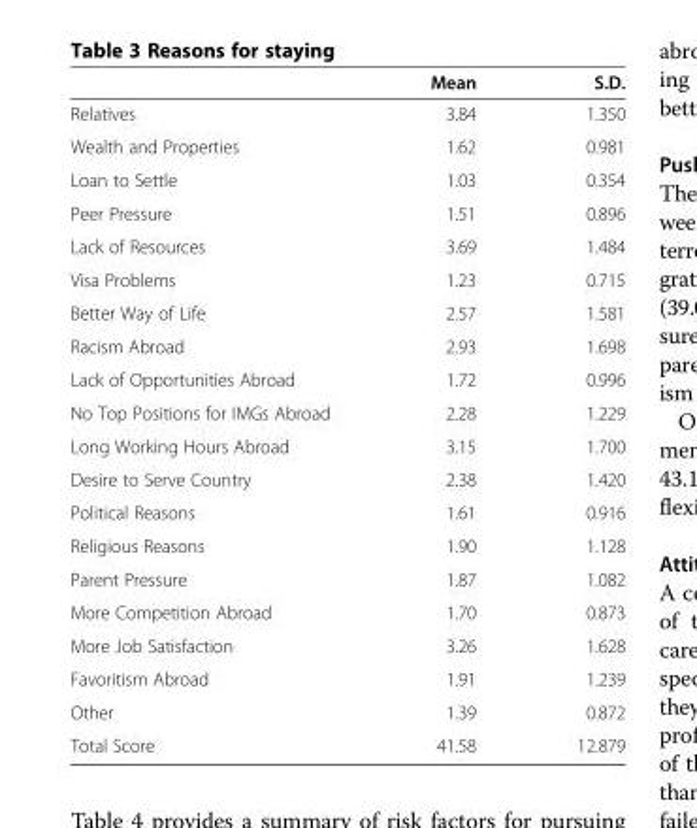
<table><thead><tr><td></td><td>Mean</td><td>S.D.</td></tr></thead><tbody><tr><td>Relatives</td><td>3.84</td><td>1.350</td></tr><tr><td>Wealth and Properties</td><td>1.62</td><td>0.981</td></tr><tr><td>Loan to Settle</td><td>1.03</td><td>0.354</td></tr><tr><td>Peer Pressure</td><td>1.51</td><td>0.896</td></tr><tr><td>Lack of Resources</td><td>3.69</td><td>1.484</td></tr><tr><td>Visa Problems</td><td>1.23</td><td>0.715</td></tr><tr><td>Better Way of Life</td><td>2.57</td><td>1.581</td></tr><tr><td>Racism Abroad</td><td>2.93</td><td>1.698</td></tr><tr><td>Lack of Opportunities Abroad</td><td>1.72</td><td>0.996</td></tr><tr><td>No Top Positions for IMGs Abroad</td><td>2.28</td><td>1.229</td></tr><tr><td>Long Working Hours Abroad</td><td>3.15</td><td>1.700</td></tr><tr><td>Desire to Serve Country</td><td>2.38</td><td>1.420</td></tr><tr><td>Political Reasons</td><td>1.61</td><td>0.916</td></tr><tr><td>Religious Reasons</td><td>1.90</td><td>1.128</td></tr><tr><td>Parent Pressure</td><td>1.87</td><td>1.082</td></tr><tr><td>More Competition Abroad</td><td>1.70</td><td>0.873</td></tr><tr><td>More Job Satisfaction</td><td>3.26</td><td>1.628</td></tr><tr><td>Favoritism Abroad</td><td>1.91</td><td>1.239</td></tr><tr><td>Other</td><td>1.39</td><td>0.872</td></tr><tr><td>Total Score</td><td>41.58</td><td>12.879</td></tr></tbody></table>